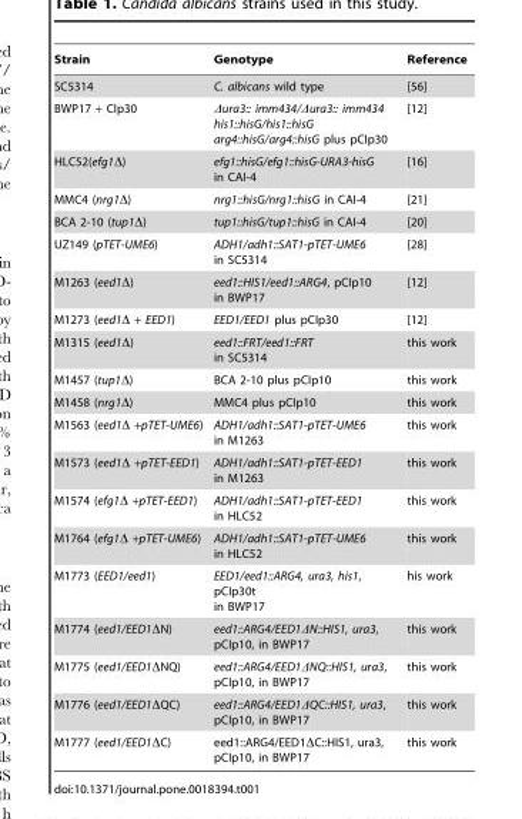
<table><thead><tr><td>Strain</td><td>Genotype</td><td>Reference</td></tr></thead><tbody><tr><td>SC5314</td><td>C. albicans wild type</td><td>[56]</td></tr><tr><td>BWP17 + CIp30</td><td>Δura3:: imm434/Δura3:: imm434 his1::hisG/his1::hisG arg4::hisG/arg4::hisG plus pCIp30</td><td>[12]</td></tr><tr><td>HLC52(efg1Δ)</td><td>efg1::hisG/efg1::hisG-URA3-hisG in CAI-4</td><td>[16]</td></tr><tr><td>MMC4 (nrg1Δ)</td><td>nrg1::hisG/nrg1::hisG in CAI-4</td><td>[21]</td></tr><tr><td>BCA 2-10 (tup1Δ)</td><td>tup1::hisG/tup1::hisG in CAI-4</td><td>[20]</td></tr><tr><td>UZ149 (pTET-UME6)</td><td>ADH1/adh1::SAT1-pTET-UME6 in SC5314</td><td>[28]</td></tr><tr><td>M1263 (eed1Δ)</td><td>eed1::HIS1/eed1::ARG4, pCIp10 in BWP17</td><td>[12]</td></tr><tr><td>M1273 (eed1Δ + EED1)</td><td>EED1/EED1 plus pCIp30</td><td>[12]</td></tr><tr><td>M1315 (eed1Δ)</td><td>eed1::FRT/eed1::FRT in SC5314</td><td>this work</td></tr><tr><td>M1457 (tup1Δ)</td><td>BCA 2-10 plus pCIp10</td><td>this work</td></tr><tr><td>M1458 (nrg1Δ)</td><td>MMC4 plus pCIp10</td><td>this work</td></tr><tr><td>M1563 (eed1Δ +pTET-UME6)</td><td>ADH1/adh1::SAT1-pTET-UME6 in M1263</td><td>this work</td></tr><tr><td>M1573 (eed1Δ +pTET-EED1)</td><td>ADH1/adh1::SAT1-pTET-EED1 in M1263</td><td>this work</td></tr><tr><td>M1574 (efg1Δ +pTET-EED1)</td><td>ADH1/adh1::SAT1-pTET-EED1 in HLC52</td><td>this work</td></tr><tr><td>M1764 (efg1Δ +pTET-UME6)</td><td>ADH1/adh1::SAT1-pTET-UME6 in HLC52</td><td>this work</td></tr><tr><td>M1773 (EED1/eed1)</td><td>EED1/eed1::ARG4, ura3, his1, pCIp30t in BWP17</td><td>his work</td></tr><tr><td>M1774 (eed1/EED1ΔN)</td><td>eed1::ARG4/EED1ΔN::HIS1, ura3, pCIp10, in BWP17</td><td>this work</td></tr><tr><td>M1775 (eed1/EED1ΔNQ)</td><td>eed1::ARG4/EED1ΔNQ::HIS1, ura3, pCIp10, in BWP17</td><td>this work</td></tr><tr><td>M1776 (eed1/EED1ΔQC)</td><td>eed1::ARG4/EED1ΔQC::HIS1, ura3, pCIp10, in BWP17</td><td>this work</td></tr><tr><td>M1777 (eed1/EED1ΔC)</td><td>eed1::ARG4/EED1ΔC::HIS1, ura3, pCIp10, in BWP17</td><td>this work</td></tr></tbody></table>